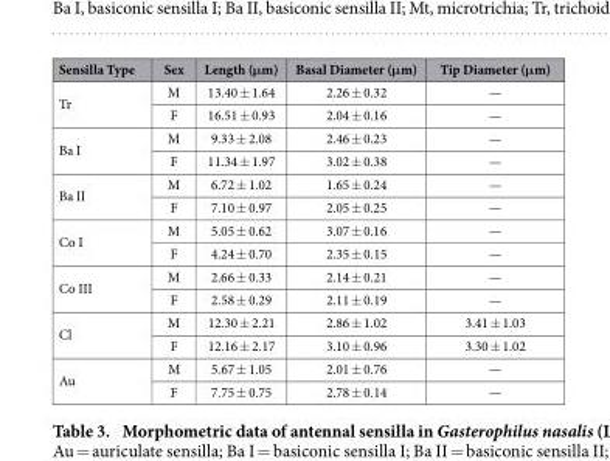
<table><thead><tr><td>Sensilla Type</td><td>Sex</td><td>Length (μm)</td><td>Basal Diameter (μm)</td><td>Tip Diameter (μm)</td></tr></thead><tbody><tr><td rowspan="2">Tr</td><td>M</td><td>13.40 ± 1.64</td><td>2.26 ± 0.32</td><td>—</td></tr><tr><td>F</td><td>16.51 ± 0.93</td><td>2.04 ± 0.16</td><td>—</td></tr><tr><td rowspan="2">Ba I</td><td>M</td><td>9.33 ± 2.08</td><td>2.46 ± 0.23</td><td>—</td></tr><tr><td>F</td><td>11.34 ± 1.97</td><td>3.02 ± 0.38</td><td>—</td></tr><tr><td rowspan="2">Ba II</td><td>M</td><td>6.72 ± 1.02</td><td>1.65 ± 0.24</td><td>—</td></tr><tr><td>F</td><td>7.10 ± 0.97</td><td>2.05 ± 0.25</td><td>—</td></tr><tr><td rowspan="2">Co I</td><td>M</td><td>5.05 ± 0.62</td><td>3.07 ± 0.16</td><td>—</td></tr><tr><td>F</td><td>4.24 ± 0.70</td><td>2.35 ± 0.15</td><td>—</td></tr><tr><td rowspan="2">Co III</td><td>M</td><td>2.66 ± 0.33</td><td>2.14 ± 0.21</td><td>—</td></tr><tr><td>F</td><td>2.58 ± 0.29</td><td>2.11 ± 0.19</td><td>—</td></tr><tr><td rowspan="2">Cl</td><td>M</td><td>12.30 ± 2.21</td><td>2.86 ± 1.02</td><td>3.41 ± 1.03</td></tr><tr><td>F</td><td>12.16 ± 2.17</td><td>3.10 ± 0.96</td><td>3.30 ± 1.02</td></tr><tr><td rowspan="2">Au</td><td>M</td><td>5.67 ± 1.05</td><td>2.01 ± 0.76</td><td>—</td></tr><tr><td>F</td><td>7.75 ± 0.75</td><td>2.78 ± 0.14</td><td>—</td></tr></tbody></table>